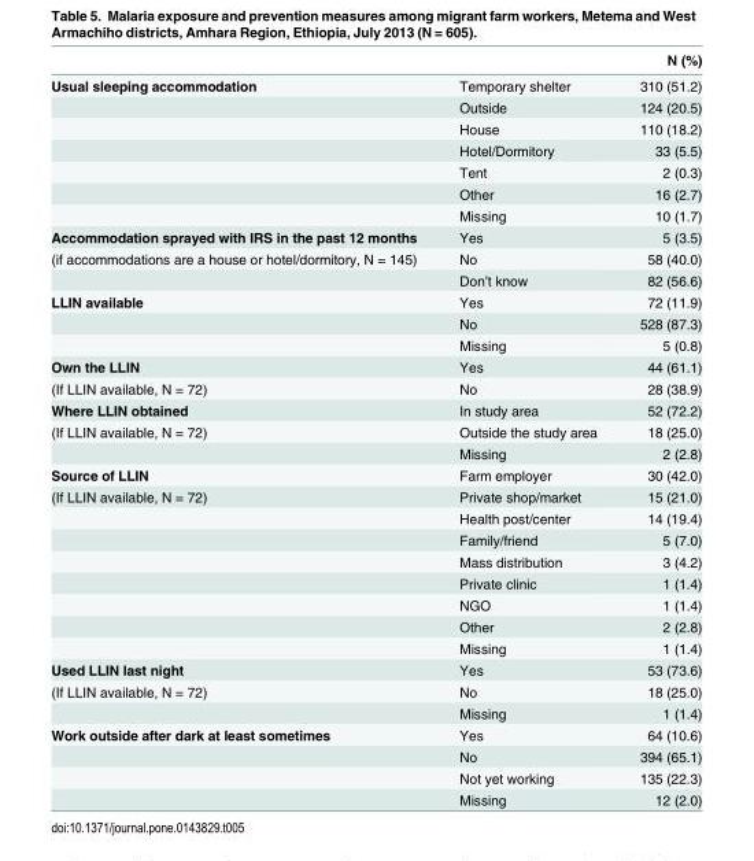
<table><thead><tr><td></td><td></td><td>N (%)</td></tr></thead><tbody><tr><td rowspan="7">Usual sleeping accommodation</td><td>Temporary shelter</td><td>310 (51.2)</td></tr><tr><td>Outside</td><td>124 (20.5)</td></tr><tr><td>House</td><td>110 (18.2)</td></tr><tr><td>Hotel/Dormitory</td><td>33 (5.5)</td></tr><tr><td>Tent</td><td>2 (0.3)</td></tr><tr><td>Other</td><td>16 (2.7)</td></tr><tr><td>Missing</td><td>10 (1.7)</td></tr><tr><td>Accommodation sprayed with IRS in the past 12 months</td><td>Yes</td><td>5 (3.5)</td></tr><tr><td rowspan="2">(if accommodations are a house or hotel/dormitory, N = 145)</td><td>No</td><td>58 (40.0)</td></tr><tr><td>Don’t know</td><td>82 (56.6)</td></tr><tr><td rowspan="3">LLIN available</td><td>Yes</td><td>72 (11.9)</td></tr><tr><td>No</td><td>528 (87.3)</td></tr><tr><td>Missing</td><td>5 (0.8)</td></tr><tr><td>Own the LLIN</td><td>Yes</td><td>44 (61.1)</td></tr><tr><td>(If LLIN available, N = 72)</td><td>No</td><td>28 (38.9)</td></tr><tr><td>Where LLIN obtained</td><td>In study area</td><td>52 (72.2)</td></tr><tr><td rowspan="2">(If LLIN available, N = 72)</td><td>Outside the study area</td><td>18 (25.0)</td></tr><tr><td>Missing</td><td>2 (2.8)</td></tr><tr><td>Source of LLIN</td><td>Farm employer</td><td>30 (42.0)</td></tr><tr><td rowspan="8">(If LLIN available, N = 72)</td><td>Private shop/market</td><td>15 (21.0)</td></tr><tr><td>Health post/center</td><td>14 (19.4)</td></tr><tr><td>Family/friend</td><td>5 (7.0)</td></tr><tr><td>Mass distribution</td><td>3 (4.2)</td></tr><tr><td>Private clinic</td><td>1 (1.4)</td></tr><tr><td>NGO</td><td>1 (1.4)</td></tr><tr><td>Other</td><td>2 (2.8)</td></tr><tr><td>Missing</td><td>1 (1.4)</td></tr><tr><td>Used LLIN last night</td><td>Yes</td><td>53 (73.6)</td></tr><tr><td rowspan="2">(If LLIN available, N = 72)</td><td>No</td><td>18 (25.0)</td></tr><tr><td>Missing</td><td>1 (1.4)</td></tr><tr><td rowspan="4">Work outside after dark at least sometimes</td><td>Yes</td><td>64 (10.6)</td></tr><tr><td>No</td><td>394 (65.1)</td></tr><tr><td>Not yet working</td><td>135 (22.3)</td></tr><tr><td>Missing</td><td>12 (2.0)</td></tr></tbody></table>